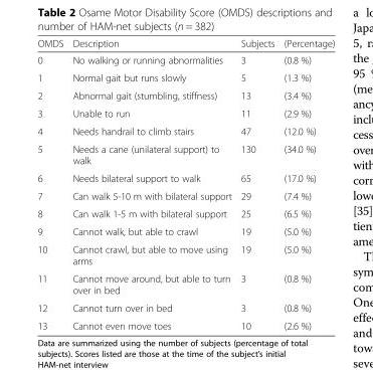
<table><thead><tr><td>OMDS</td><td>Description</td><td>Subjects</td><td>(Percentage)</td></tr></thead><tbody><tr><td>0</td><td>No walking or running abnormalities</td><td>3</td><td>(0.8 %)</td></tr><tr><td>1</td><td>Normal gait but runs slowly</td><td>5</td><td>(1.3 %)</td></tr><tr><td>2</td><td>Abnormal gait (stumbling, stiffness)</td><td>13</td><td>(3.4 %)</td></tr><tr><td>3</td><td>Unable to run</td><td>11</td><td>(2.9 %)</td></tr><tr><td>4</td><td>Needs handrail to climb stairs</td><td>47</td><td>(12.0 %)</td></tr><tr><td>5</td><td>Needs a cane (unilateral support) to walk</td><td>130</td><td>(34.0 %)</td></tr><tr><td>6</td><td>Needs bilateral support to walk</td><td>65</td><td>(17.0 %)</td></tr><tr><td>7</td><td>Can walk 5-10 m with bilateral support</td><td>29</td><td>(7.4 %)</td></tr><tr><td>8</td><td>Can walk 1-5 m with bilateral support</td><td>25</td><td>(6.5 %)</td></tr><tr><td>9</td><td>Cannot walk, but able to crawl</td><td>19</td><td>(5.0 %)</td></tr><tr><td>10</td><td>Cannot crawl, but able to move using arms</td><td>19</td><td>(5.0 %)</td></tr><tr><td>11</td><td>Cannot move around, but able to turn over in bed</td><td>3</td><td>(0.8 %)</td></tr><tr><td>12</td><td>Cannot turn over in bed</td><td>3</td><td>(0.8 %)</td></tr><tr><td>13</td><td>Cannot even move toes</td><td>10</td><td>(2.6 %)</td></tr></tbody></table>